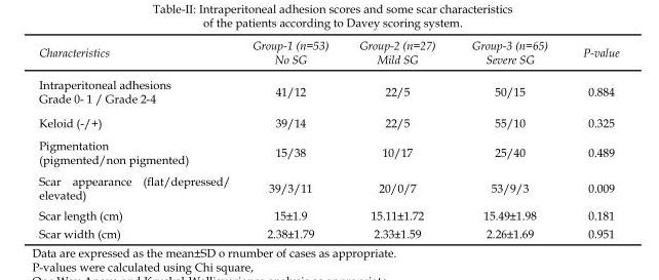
<table><thead><tr><td>Characteristics</td><td>Group-1 (n=53) No SG</td><td>Group-2 (n=27) Mild SG</td><td>Group-3 (n=65) Severe SG</td><td>P-value</td></tr></thead><tbody><tr><td>Intraperitoneal adhesions Grade 0- 1 / Grade 2-4</td><td>41/12</td><td>22/5</td><td>50/15</td><td>0.884</td></tr><tr><td>Keloid (-/+)</td><td>39/14</td><td>22/5</td><td>55/10</td><td>0.325</td></tr><tr><td>Pigmentation (pigmented/non pigmented)</td><td>15/38</td><td>10/17</td><td>25/40</td><td>0.489</td></tr><tr><td>Scar appearance (flat/depressed/ elevated)</td><td>39/3/11</td><td>20/0/7</td><td>53/9/3</td><td>0.009</td></tr><tr><td>Scar length (cm)</td><td>15±1.9</td><td>15.11±1.72</td><td>15.49±1.98</td><td>0.181</td></tr><tr><td>Scar width (cm)</td><td>2.38±1.79</td><td>2.33±1.59</td><td>2.26±1.69</td><td>0.951</td></tr></tbody></table>